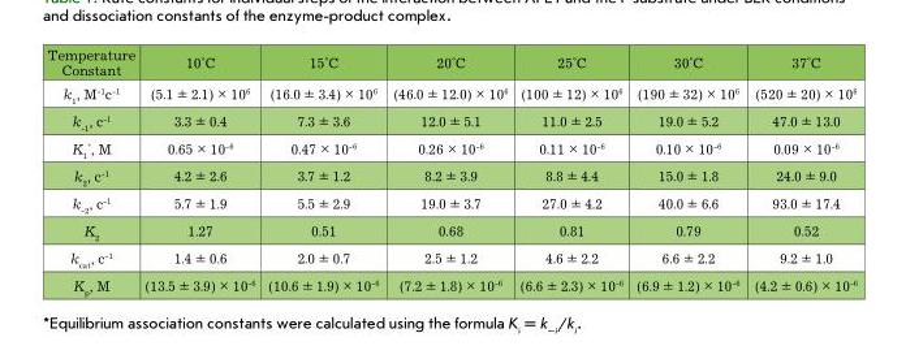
<table><thead><tr><td>Temperature Constant</td><td>10°C</td><td>15°C</td><td>20°C</td><td>25°C</td><td>30°C</td><td>37°C</td></tr></thead><tbody><tr><td>k<sub>1</sub>, M<sup>-1</sup>c<sup>-1</sup></td><td>(5.1 ± 2.1) × 10<sup>6</sup></td><td>(16.0 ± 3.4) × 10<sup>6</sup></td><td>(46.0 ± 12.0) × 10<sup>6</sup></td><td>(100 ± 12) × 10<sup>6</sup></td><td>(190 ± 32) × 10<sup>6</sup></td><td>(520 ± 20) × 10<sup>6</sup></td></tr><tr><td>k<sup>-1</sup>, c<sup>-1</sup></td><td>3.3 ± 0.4</td><td>7.3 ± 3.6</td><td>12.0 ± 5.1</td><td>11.0 ± 2.5</td><td>19.0 ± 5.2</td><td>47.0 ± 13.0</td></tr><tr><td>K<sub>1</sub> *, M</td><td>0.65 × 10<sup>-6</sup></td><td>0.47 × 10<sup>-6</sup></td><td>0.26 × 10<sup>-6</sup></td><td>0.11 × 10<sup>-6</sup></td><td>0.10 × 10<sup>-6</sup></td><td>0.09 × 10<sup>-6</sup></td></tr><tr><td>k<sub>2</sub>, c<sup>-1</sup></td><td>4.2 ± 2.6</td><td>3.7 ± 1.2</td><td>8.2 ± 3.9</td><td>8.8 ± 4.4</td><td>15.0 ± 1.8</td><td>24.0 ± 9.0</td></tr><tr><td>k<sub>-2</sub>, c<sup>-1</sup></td><td>5.7 ± 1.9</td><td>5.5 ± 2.9</td><td>19.0 ± 3.7</td><td>27.0 ± 4.2</td><td>40.0 ± 6.6</td><td>93.0 ± 17.4</td></tr><tr><td>K<sub>2</sub></td><td>1.27</td><td>0.51</td><td>0.68</td><td>0.81</td><td>0.79</td><td>0.52</td></tr><tr><td>k<sub>cat</sub>, c<sup>-1</sup></td><td>1.4 ± 0.6</td><td>2.0 ± 0.7</td><td>2.5 ± 1.2</td><td>4.6 ± 2.2</td><td>6.6 ± 2.2</td><td>9.2 ± 1.0</td></tr><tr><td>K<sub>p</sub>, M</td><td>(13.5 ± 3.9) × 10<sup>-6</sup></td><td>(10.6 ± 1.9) × 10<sup>-6</sup></td><td>(7.2 ± 1.8) × 10<sup>-6</sup></td><td>(6.6 ± 2.3) × 10<sup>-6</sup></td><td>(6.9 ± 1.2) × 10<sup>-6</sup></td><td>(4.2 ± 0.6) × 10<sup>-6</sup></td></tr></tbody></table>